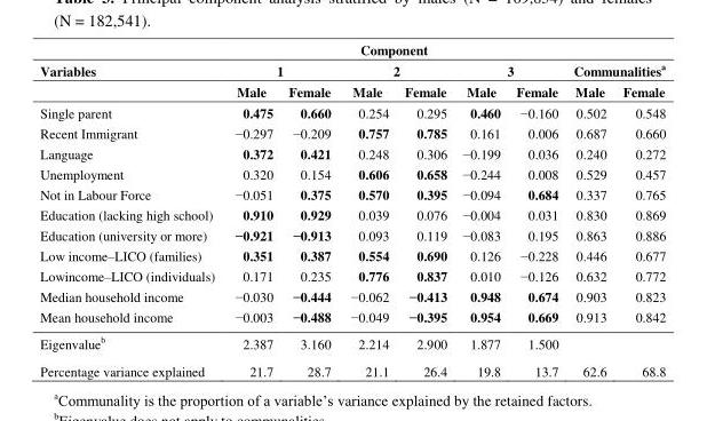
<table><thead><tr><td rowspan="3">Variables</td><td colspan="6">Component</td><td></td><td></td></tr><tr><td colspan="2">1</td><td colspan="2">2</td><td colspan="2">3</td><td colspan="2">Communalities<sup>a</sup></td></tr><tr><td>Male</td><td>Female</td><td>Male</td><td>Female</td><td>Male</td><td>Female</td><td>Male</td><td>Female</td></tr></thead><tbody><tr><td>Single parent</td><td>0.475</td><td>0.660</td><td>0.254</td><td>0.295</td><td>0.460</td><td>−0.160</td><td>0.502</td><td>0.548</td></tr><tr><td>Recent Immigrant</td><td>−0.297</td><td>−0.209</td><td>0.757</td><td>0.785</td><td>0.161</td><td>0.006</td><td>0.687</td><td>0.660</td></tr><tr><td>Language</td><td>0.372</td><td>0.421</td><td>0.248</td><td>0.306</td><td>−0.199</td><td>0.036</td><td>0.240</td><td>0.272</td></tr><tr><td>Unemployment</td><td>0.320</td><td>0.154</td><td>0.606</td><td>0.658</td><td>−0.244</td><td>0.008</td><td>0.529</td><td>0.457</td></tr><tr><td>Not in Labour Force</td><td>−0.051</td><td>0.375</td><td>0.570</td><td>0.395</td><td>−0.094</td><td>0.684</td><td>0.337</td><td>0.765</td></tr><tr><td>Education (lacking high school)</td><td>0.910</td><td>0.929</td><td>0.039</td><td>0.076</td><td>−0.004</td><td>0.031</td><td>0.830</td><td>0.869</td></tr><tr><td>Education (university or more)</td><td>−0.921</td><td>−0.913</td><td>0.093</td><td>0.119</td><td>−0.083</td><td>0.195</td><td>0.863</td><td>0.886</td></tr><tr><td>Low income–LICO (families)</td><td>0.351</td><td>0.387</td><td>0.554</td><td>0.690</td><td>0.126</td><td>−0.228</td><td>0.446</td><td>0.677</td></tr><tr><td>Lowincome–LICO (individuals)</td><td>0.171</td><td>0.235</td><td>0.776</td><td>0.837</td><td>0.010</td><td>−0.126</td><td>0.632</td><td>0.772</td></tr><tr><td>Median household income</td><td>−0.030</td><td>−0.444</td><td>−0.062</td><td>−0.413</td><td>0.948</td><td>0.674</td><td>0.903</td><td>0.823</td></tr><tr><td>Mean household income</td><td>−0.003</td><td>−0.488</td><td>−0.049</td><td>−0.395</td><td>0.954</td><td>0.669</td><td>0.913</td><td>0.842</td></tr><tr><td>Eigenvalue<sup>b</sup></td><td>2.387</td><td>3.160</td><td>2.214</td><td>2.900</td><td>1.877</td><td>1.500</td><td></td><td></td></tr><tr><td>Percentage variance explained</td><td>21.7</td><td>28.7</td><td>21.1</td><td>26.4</td><td>19.8</td><td>13.7</td><td>62.6</td><td>68.8</td></tr></tbody></table>